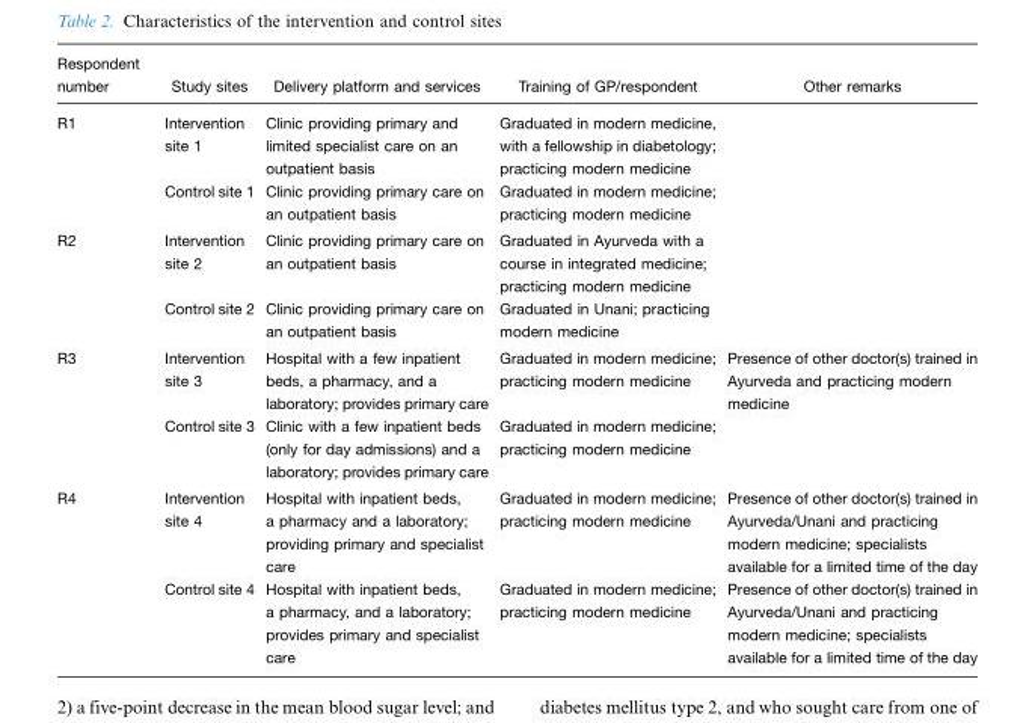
<table><thead><tr><td>Respondent number</td><td>Study sites</td><td>Delivery platform and services</td><td>Training of GP/respondent</td><td>Other remarks</td></tr></thead><tbody><tr><td rowspan="2">R1</td><td>Intervention site 1</td><td>Clinic providing primary and limited specialist care on an outpatient basis</td><td>Graduated in modern medicine, with a fellowship in diabetology; practicing modern medicine</td><td></td></tr><tr><td>Control site 1</td><td>Clinic providing primary care on an outpatient basis</td><td>Graduated in modern medicine; practicing modern medicine</td><td></td></tr><tr><td rowspan="2">R2</td><td>Intervention site 2</td><td>Clinic providing primary care on an outpatient basis</td><td>Graduated in Ayurveda with a course in integrated medicine; practicing modern medicine</td><td></td></tr><tr><td>Control site 2</td><td>Clinic providing primary care on an outpatient basis</td><td>Graduated in Unani; practicing modern medicine</td><td></td></tr><tr><td rowspan="2">R3</td><td>Intervention site 3</td><td>Hospital with a few inpatient beds, a pharmacy, and a laboratory; provides primary care</td><td>Graduated in modern medicine; practicing modern medicine</td><td>Presence of other doctor(s) trained in Ayurveda and practicing modern medicine</td></tr><tr><td>Control site 3</td><td>Clinic with a few inpatient beds (only for day admissions) and a laboratory; provides primary care</td><td>Graduated in modern medicine; practicing modern medicine</td><td></td></tr><tr><td rowspan="2">R4</td><td>Intervention site 4</td><td>Hospital with inpatient beds, a pharmacy and a laboratory; providing primary and specialist care</td><td>Graduated in modern medicine; practicing modern medicine</td><td>Presence of other doctor(s) trained in Ayurveda/Unani and practicing modern medicine; specialists available for a limited time of the day</td></tr><tr><td>Control site 4</td><td>Hospital with inpatient beds, a pharmacy, and a laboratory; provides primary and specialist care</td><td>Graduated in modern medicine; practicing modern medicine</td><td>Presence of other doctor(s) trained in Ayurveda/Unani and practicing modern medicine; specialists available for a limited time of the day</td></tr></tbody></table>